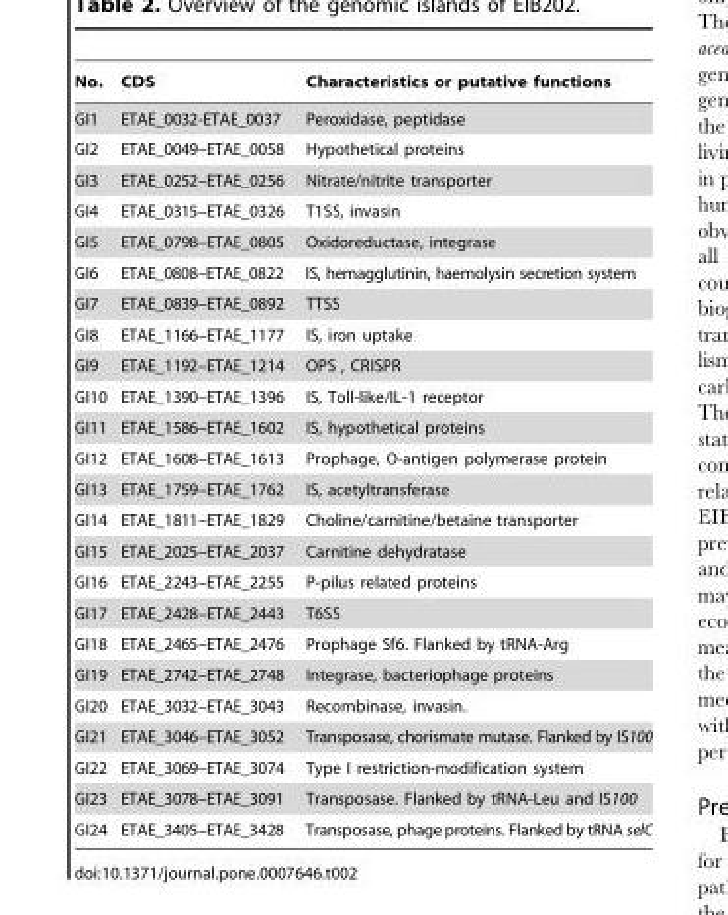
<table><thead><tr><td>No.</td><td>CDS</td><td>Characteristics or putative functions</td></tr></thead><tbody><tr><td>GI1</td><td>ETAE_0032-ETAE_0037</td><td>Peroxidase, peptidase</td></tr><tr><td>GI2</td><td>ETAE_0049–ETAE_0058</td><td>Hypothetical proteins</td></tr><tr><td>GI3</td><td>ETAE_0252–ETAE_0256</td><td>Nitrate/nitrite transporter</td></tr><tr><td>GI4</td><td>ETAE_0315–ETAE_0326</td><td>T1SS, invasin</td></tr><tr><td>GI5</td><td>ETAE_0798–ETAE_0805</td><td>Oxidoreductase, integrase</td></tr><tr><td>GI6</td><td>ETAE_0808–ETAE_0822</td><td>IS, hemagglutinin, haemolysin secretion system</td></tr><tr><td>GI7</td><td>ETAE_0839–ETAE_0892</td><td>TTSS</td></tr><tr><td>GI8</td><td>ETAE_1166–ETAE_1177</td><td>IS, iron uptake</td></tr><tr><td>GI9</td><td>ETAE_1192–ETAE_1214</td><td>OPS , CRISPR</td></tr><tr><td>GI10</td><td>ETAE_1390–ETAE_1396</td><td>IS, Toll-like/IL-1 receptor</td></tr><tr><td>GI11</td><td>ETAE_1586–ETAE_1602</td><td>IS, hypothetical proteins</td></tr><tr><td>GI12</td><td>ETAE_1608–ETAE_1613</td><td>Prophage, O-antigen polymerase protein</td></tr><tr><td>GI13</td><td>ETAE_1759–ETAE_1762</td><td>IS, acetyltransferase</td></tr><tr><td>GI14</td><td>ETAE_1811–ETAE_1829</td><td>Choline/carnitine/betaine transporter</td></tr><tr><td>GI15</td><td>ETAE_2025–ETAE_2037</td><td>Carnitine dehydratase</td></tr><tr><td>GI16</td><td>ETAE_2243–ETAE_2255</td><td>P-pilus related proteins</td></tr><tr><td>GI17</td><td>ETAE_2428–ETAE_2443</td><td>T6SS</td></tr><tr><td>GI18</td><td>ETAE_2465–ETAE_2476</td><td>Prophage Sf6. Flanked by tRNA-Arg</td></tr><tr><td>GI19</td><td>ETAE_2742–ETAE_2748</td><td>Integrase, bacteriophage proteins</td></tr><tr><td>GI20</td><td>ETAE_3032–ETAE_3043</td><td>Recombinase, invasin.</td></tr><tr><td>GI21</td><td>ETAE_3046–ETAE_3052</td><td>Transposase, chorismate mutase. Flanked by IS100</td></tr><tr><td>GI22</td><td>ETAE_3069–ETAE_3074</td><td>Type I restriction-modification system</td></tr><tr><td>GI23</td><td>ETAE_3078–ETAE_3091</td><td>Transposase. Flanked by tRNA-Leu and IS100</td></tr><tr><td>GI24</td><td>ETAE_3405–ETAE_3428</td><td>Transposase, phage proteins. Flanked by tRNA selC</td></tr></tbody></table>